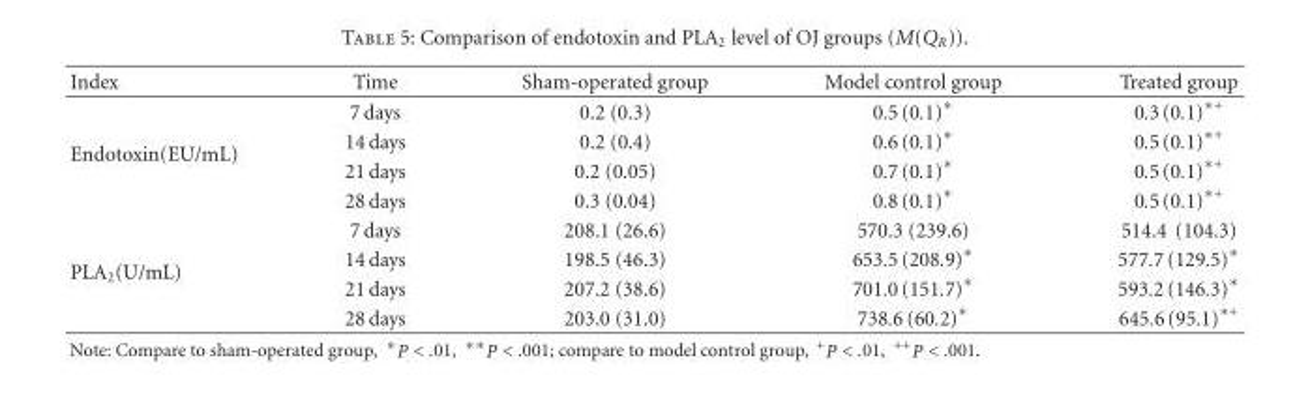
<table><thead><tr><td>Index</td><td>Time</td><td>Sham-operated group</td><td>Model control group</td><td>Treated group</td></tr></thead><tbody><tr><td rowspan="4">Endotoxin(EU/mL)</td><td>7 days</td><td>0.2 (0.3)</td><td>0.5(0.1)∗</td><td>0.3(0.1)∗+</td></tr><tr><td>14 days</td><td>0.2 (0.4)</td><td>0.6(0.1)∗</td><td>0.5(0.1)∗+</td></tr><tr><td>21 days</td><td>0.2 (0.05)</td><td>0.7(0.1)∗</td><td>0.5(0.1)∗+</td></tr><tr><td>28 days</td><td>0.3 (0.04)</td><td>0.8(0.1)∗</td><td>0.5(0.1)∗+</td></tr><tr><td rowspan="4">PLA<sub>2</sub>(U/mL)</td><td>7 days</td><td>208.1 (26.6)</td><td>570.3 (239.6)</td><td>514.4 (104.3)</td></tr><tr><td>14 days</td><td>198.5 (46.3)</td><td>653.5(208.9)∗</td><td>577.7(129.5)∗</td></tr><tr><td>21 days</td><td>207.2 (38.6)</td><td>701.0(151.7)∗</td><td>593.2(146.3)∗</td></tr><tr><td>28 days</td><td>203.0 (31.0)</td><td>738.6(60.2)∗</td><td>645.6(95.1)∗+</td></tr></tbody></table>